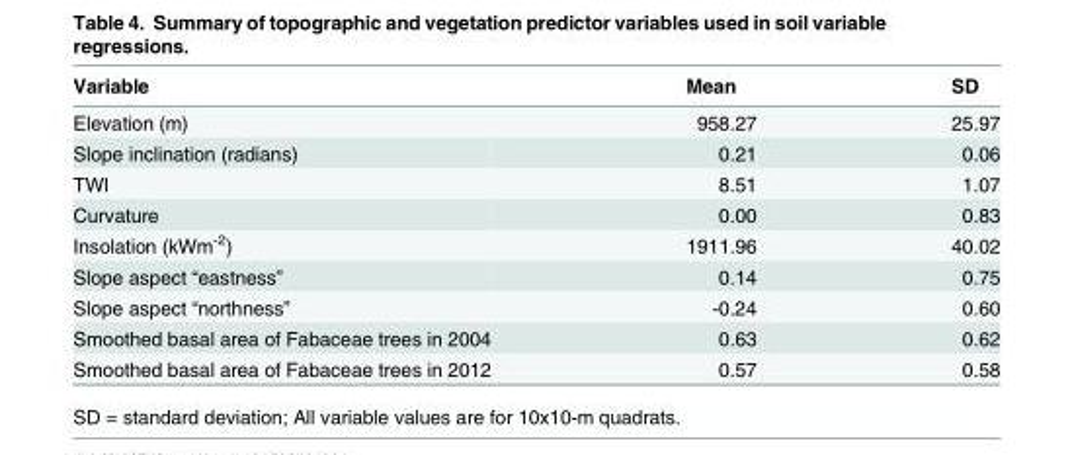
<table><thead><tr><td>Variable</td><td>Mean</td><td>SD</td></tr></thead><tbody><tr><td>Elevation (m)</td><td>958.27</td><td>25.97</td></tr><tr><td>Slope inclination (radians)</td><td>0.21</td><td>0.06</td></tr><tr><td>TWI</td><td>8.51</td><td>1.07</td></tr><tr><td>Curvature</td><td>0.00</td><td>0.83</td></tr><tr><td>Insolation (kWm<sup>-2</sup>)</td><td>1911.96</td><td>40.02</td></tr><tr><td>Slope aspect “eastness”</td><td>0.14</td><td>0.75</td></tr><tr><td>Slope aspect “northness”</td><td>-0.24</td><td>0.60</td></tr><tr><td>Smoothed basal area of Fabaceae trees in 2004</td><td>0.63</td><td>0.62</td></tr><tr><td>Smoothed basal area of Fabaceae trees in 2012</td><td>0.57</td><td>0.58</td></tr></tbody></table>